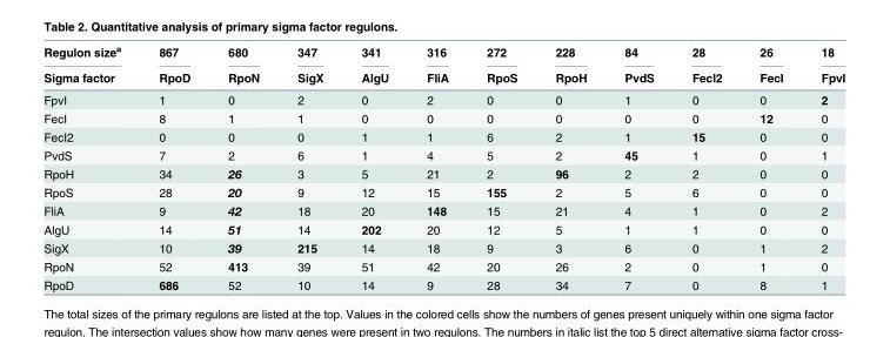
<table><thead><tr><td rowspan="2">Regulon size<sup>a</sup> Sigma factor</td><td rowspan="2">867 RpoD</td><td rowspan="2">680 RpoN</td><td rowspan="2">347 SigX</td><td rowspan="2">341 AlgU</td><td rowspan="2">316 FliA</td><td rowspan="2">272 RpoS</td><td rowspan="2">228 RpoH</td><td rowspan="2">84 PvdS</td><td rowspan="2">28 FecI2</td><td rowspan="2">26 FecI</td><td rowspan="2">18 FpvI</td></tr><tr></tr></thead><tbody><tr><td>FpvI</td><td>1</td><td>0</td><td>2</td><td>0</td><td>2</td><td>0</td><td>0</td><td>1</td><td>0</td><td>0</td><td>2</td></tr><tr><td>FecI</td><td>8</td><td>1</td><td>1</td><td>0</td><td>0</td><td>0</td><td>0</td><td>0</td><td>0</td><td>12</td><td>0</td></tr><tr><td>FecI2</td><td>0</td><td>0</td><td>0</td><td>1</td><td>1</td><td>6</td><td>2</td><td>1</td><td>15</td><td>0</td><td>0</td></tr><tr><td>PvdS</td><td>7</td><td>2</td><td>6</td><td>1</td><td>4</td><td>5</td><td>2</td><td>45</td><td>1</td><td>0</td><td>1</td></tr><tr><td>RpoH</td><td>34</td><td>26</td><td>3</td><td>5</td><td>21</td><td>2</td><td>96</td><td>2</td><td>2</td><td>0</td><td>0</td></tr><tr><td>RpoS</td><td>28</td><td>20</td><td>9</td><td>12</td><td>15</td><td>155</td><td>2</td><td>5</td><td>6</td><td>0</td><td>0</td></tr><tr><td>FliA</td><td>9</td><td>42</td><td>18</td><td>20</td><td>148</td><td>15</td><td>21</td><td>4</td><td>1</td><td>0</td><td>2</td></tr><tr><td>AlgU</td><td>14</td><td>51</td><td>14</td><td>202</td><td>20</td><td>12</td><td>5</td><td>1</td><td>1</td><td>0</td><td>0</td></tr><tr><td>SigX</td><td>10</td><td>39</td><td>215</td><td>14</td><td>18</td><td>9</td><td>3</td><td>6</td><td>0</td><td>1</td><td>2</td></tr><tr><td>RpoN</td><td>52</td><td>413</td><td>39</td><td>51</td><td>42</td><td>20</td><td>26</td><td>2</td><td>0</td><td>1</td><td>0</td></tr><tr><td>RpoD</td><td>686</td><td>52</td><td>10</td><td>14</td><td>9</td><td>28</td><td>34</td><td>7</td><td>0</td><td>8</td><td>1</td></tr></tbody></table>